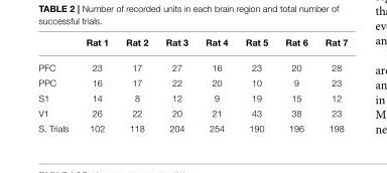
<table><thead><tr><td></td><td>Rat 1</td><td>Rat 2</td><td>Rat 3</td><td>Rat 4</td><td>Rat 5</td><td>Rat 6</td><td>Rat 7</td></tr></thead><tbody><tr><td>PFC</td><td>23</td><td>17</td><td>27</td><td>16</td><td>23</td><td>20</td><td>28</td></tr><tr><td>PPC</td><td>16</td><td>17</td><td>22</td><td>20</td><td>10</td><td>9</td><td>23</td></tr><tr><td>S1</td><td>14</td><td>8</td><td>12</td><td>9</td><td>19</td><td>15</td><td>12</td></tr><tr><td>V1</td><td>26</td><td>22</td><td>20</td><td>21</td><td>43</td><td>38</td><td>23</td></tr><tr><td>S. Trials</td><td>102</td><td>118</td><td>204</td><td>254</td><td>190</td><td>196</td><td>198</td></tr></tbody></table>